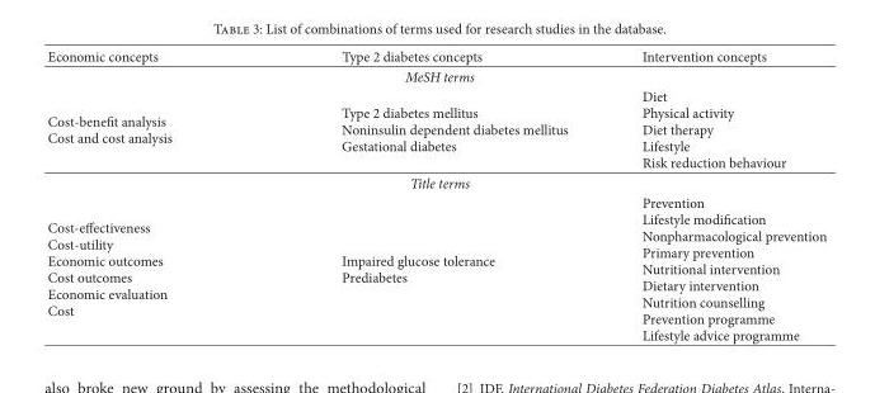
<table><thead><tr><td>Economic concepts</td><td>Type 2 diabetes concepts</td><td>Intervention concepts</td></tr></thead><tbody><tr><td colspan="3">MeSH terms</td></tr><tr><td>Cost-benefit analysis Cost and cost analysis</td><td>Type 2 diabetes mellitus Noninsulin dependent diabetes mellitus Gestational diabetes</td><td>Diet Physical activity Diet therapy Lifestyle Risk reduction behaviour</td></tr><tr><td colspan="3">Title terms</td></tr><tr><td>Cost-effectiveness Cost-utility Economic outcomes Cost outcomes Economic evaluation Cost</td><td>Impaired glucose tolerance Prediabetes</td><td>Prevention Lifestyle modification Nonpharmacological prevention Primary prevention Nutritional intervention Dietary intervention Nutrition counselling Prevention programme Lifestyle advice programme</td></tr></tbody></table>